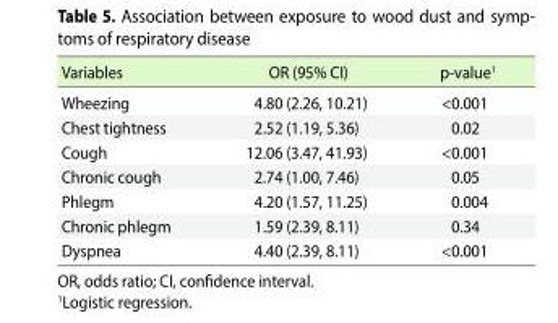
<table><thead><tr><td>Variables</td><td>OR (95% CI)</td><td>p-value<sup>1</sup></td></tr></thead><tbody><tr><td>Wheezing</td><td>4.80 (2.26, 10.21)</td><td>&lt;0.001</td></tr><tr><td>Chest tightness</td><td>2.52 (1.19, 5.36)</td><td>0.02</td></tr><tr><td>Cough</td><td>12.06 (3.47, 41.93)</td><td>&lt;0.001</td></tr><tr><td>Chronic cough</td><td>2.74 (1.00, 7.46)</td><td>0.05</td></tr><tr><td>Phlegm</td><td>4.20 (1.57, 11.25)</td><td>0.004</td></tr><tr><td>Chronic phlegm</td><td>1.59 (2.39, 8.11)</td><td>0.34</td></tr><tr><td>Dyspnea</td><td>4.40 (2.39, 8.11)</td><td>&lt;0.001</td></tr></tbody></table>